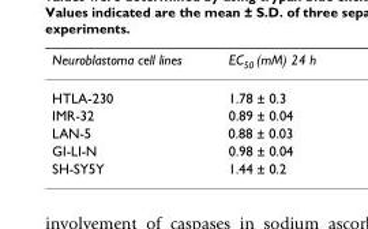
<table><thead><tr><td>Neuroblastoma cell lines</td><td>EC<sub>50</sub> (mM) 24 h</td></tr></thead><tbody><tr><td>HTLA-230</td><td>1.78 ± 0.3</td></tr><tr><td>IMR-32</td><td>0.89 ± 0.04</td></tr><tr><td>LAN-5</td><td>0.88 ± 0.03</td></tr><tr><td>GI-LI-N</td><td>0.98 ± 0.04</td></tr><tr><td>SH-SY5Y</td><td>1.44 ± 0.2</td></tr></tbody></table>